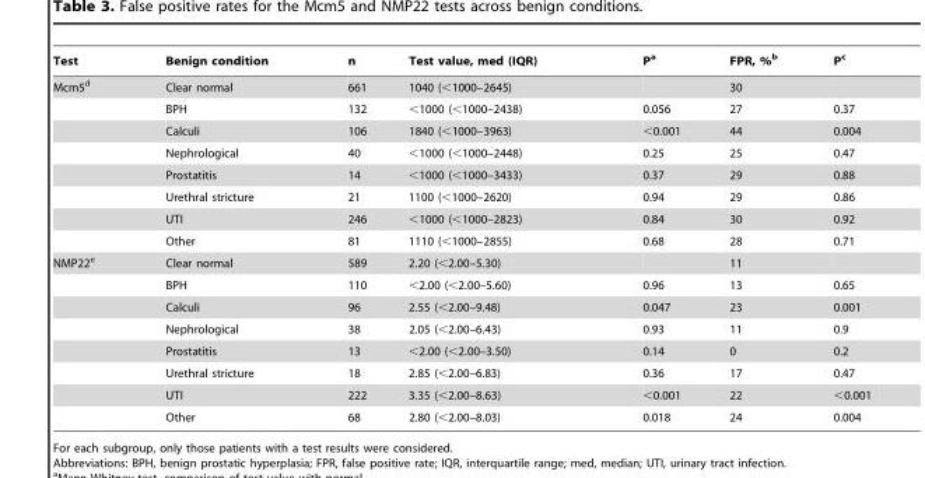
<table><thead><tr><td>Test</td><td>Benign condition</td><td>n</td><td>Test value, med (IQR)</td><td>P<sup>a</sup></td><td>FPR, %<sup>b</sup></td><td>P<sup>c</sup></td></tr></thead><tbody><tr><td rowspan="8">Mcm5<sup>d</sup></td><td>Clear normal</td><td>661</td><td>1040 (&lt;1000–2645)</td><td></td><td>30</td><td></td></tr><tr><td>BPH</td><td>132</td><td>&lt;1000 (&lt;1000–2438)</td><td>0.056</td><td>27</td><td>0.37</td></tr><tr><td>Calculi</td><td>106</td><td>1840 (&lt;1000–3963)</td><td>&lt;0.001</td><td>44</td><td>0.004</td></tr><tr><td>Nephrological</td><td>40</td><td>&lt;1000 (&lt;1000–2448)</td><td>0.25</td><td>25</td><td>0.47</td></tr><tr><td>Prostatitis</td><td>14</td><td>&lt;1000 (&lt;1000–3433)</td><td>0.37</td><td>29</td><td>0.88</td></tr><tr><td>Urethral stricture</td><td>21</td><td>1100 (&lt;1000–2620)</td><td>0.94</td><td>29</td><td>0.86</td></tr><tr><td>UTI</td><td>246</td><td>&lt;1000 (&lt;1000–2823)</td><td>0.84</td><td>30</td><td>0.92</td></tr><tr><td>Other</td><td>81</td><td>1110 (&lt;1000–2855)</td><td>0.68</td><td>28</td><td>0.71</td></tr><tr><td rowspan="8">NMP22<sup>e</sup></td><td>Clear normal</td><td>589</td><td>2.20 (&lt;2.00–5.30)</td><td></td><td>11</td><td></td></tr><tr><td>BPH</td><td>110</td><td>&lt;2.00 (&lt;2.00–5.60)</td><td>0.96</td><td>13</td><td>0.65</td></tr><tr><td>Calculi</td><td>96</td><td>2.55 (&lt;2.00–9.48)</td><td>0.047</td><td>23</td><td>0.001</td></tr><tr><td>Nephrological</td><td>38</td><td>2.05 (&lt;2.00–6.43)</td><td>0.93</td><td>11</td><td>0.9</td></tr><tr><td>Prostatitis</td><td>13</td><td>&lt;2.00 (&lt;2.00–3.50)</td><td>0.14</td><td>0</td><td>0.2</td></tr><tr><td>Urethral stricture</td><td>18</td><td>2.85 (&lt;2.00–6.83)</td><td>0.36</td><td>17</td><td>0.47</td></tr><tr><td>UTI</td><td>222</td><td>3.35 (&lt;2.00–8.63)</td><td>&lt;0.001</td><td>22</td><td>&lt;0.001</td></tr><tr><td>Other</td><td>68</td><td>2.80 (&lt;2.00–8.03)</td><td>0.018</td><td>24</td><td>0.004</td></tr></tbody></table>